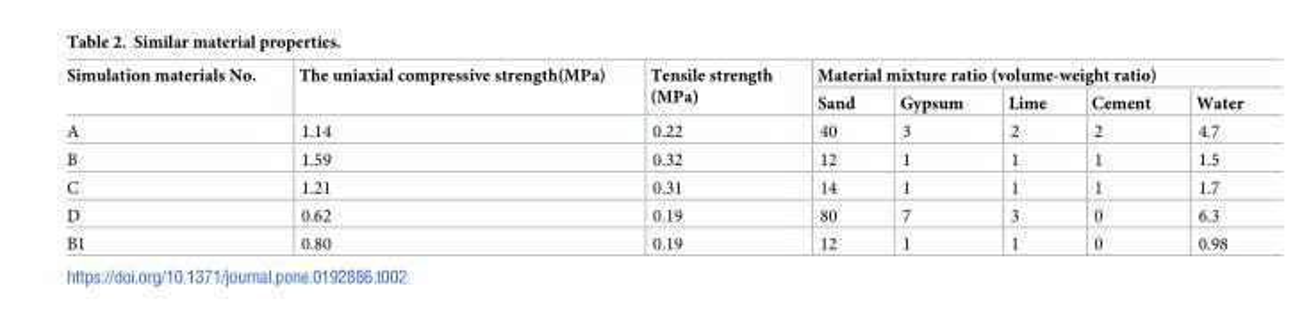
<table><thead><tr><td rowspan="2">Simulation materials No.</td><td rowspan="2">The uniaxial compressive strength(MPa)</td><td rowspan="2">Tensile strength (MPa)</td><td colspan="5">Material mixture ratio (volume-weight ratio)</td></tr><tr><td>Sand</td><td>Gypsum</td><td>Lime</td><td>Cement</td><td>Water</td></tr></thead><tbody><tr><td>A</td><td>1.14</td><td>0.22</td><td>40</td><td>3</td><td>2</td><td>2</td><td>4.7</td></tr><tr><td>B</td><td>1.59</td><td>0.32</td><td>12</td><td>1</td><td>1</td><td>1</td><td>1.5</td></tr><tr><td>C</td><td>1.21</td><td>0.31</td><td>14</td><td>1</td><td>1</td><td>1</td><td>1.7</td></tr><tr><td>D</td><td>0.62</td><td>0.19</td><td>80</td><td>7</td><td>3</td><td>0</td><td>6.3</td></tr><tr><td>B1</td><td>0.80</td><td>0.19</td><td>12</td><td>1</td><td>1</td><td>0</td><td>0.98</td></tr></tbody></table>